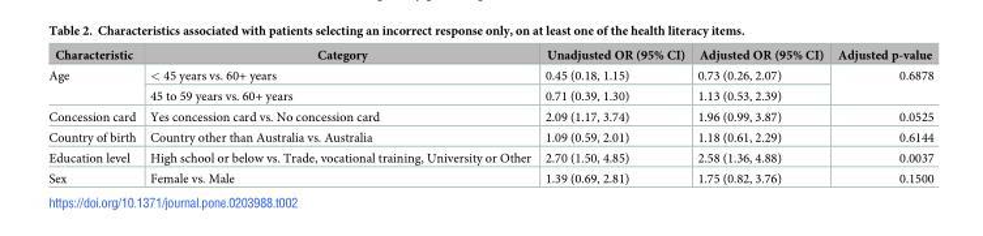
<table><thead><tr><td>Characteristic</td><td>Category</td><td>Unadjusted OR (95% CI)</td><td>Adjusted OR (95% CI)</td><td>Adjusted p-value</td></tr></thead><tbody><tr><td rowspan="2">Age</td><td>&lt; 45 years vs. 60+ years</td><td>0.45 (0.18, 1.15)</td><td>0.73 (0.26, 2.07)</td><td rowspan="2">0.6878</td></tr><tr><td>45 to 59 years vs. 60+ years</td><td>0.71 (0.39, 1.30)</td><td>1.13 (0.53, 2.39)</td></tr><tr><td>Concession card</td><td>Yes concession card vs. No concession card</td><td>2.09 (1.17, 3.74)</td><td>1.96 (0.99, 3.87)</td><td>0.0525</td></tr><tr><td>Country of birth</td><td>Country other than Australia vs. Australia</td><td>1.09 (0.59, 2.01)</td><td>1.18 (0.61, 2.29)</td><td>0.6144</td></tr><tr><td>Education level</td><td>High school or below vs. Trade, vocational training, University or Other</td><td>2.70 (1.50, 4.85)</td><td>2.58 (1.36, 4.88)</td><td>0.0037</td></tr><tr><td>Sex</td><td>Female vs. Male</td><td>1.39 (0.69, 2.81)</td><td>1.75 (0.82, 3.76)</td><td>0.1500</td></tr></tbody></table>